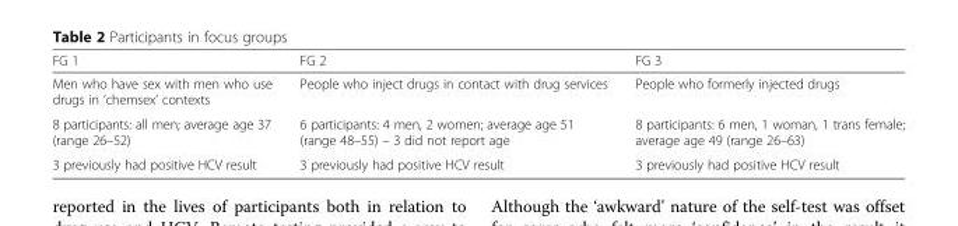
<table><thead><tr><td>FG 1</td><td>FG 2</td><td>FG 3</td></tr></thead><tbody><tr><td>Men who have sex with men who use drugs in ‘chemsex’ contexts</td><td>People who inject drugs in contact with drug services</td><td>People who formerly injected drugs</td></tr><tr><td>8 participants: all men; average age 37 (range 26–52)</td><td>6 participants: 4 men, 2 women; average age 51 (range 48–55) – 3 did not report age</td><td>8 participants: 6 men, 1 woman, 1 trans female; average age 49 (range 26–63)</td></tr><tr><td>3 previously had positive HCV result</td><td>3 previously had positive HCV result</td><td>3 previously had positive HCV result</td></tr></tbody></table>